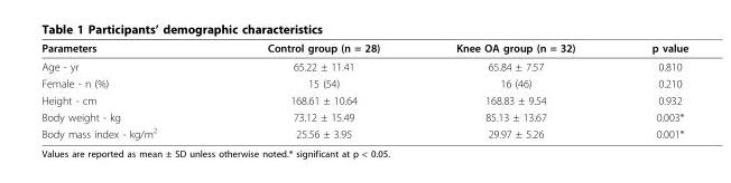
<table><thead><tr><td>Parameters</td><td>Control group (n = 28)</td><td>Knee OA group (n = 32)</td><td>p value</td></tr></thead><tbody><tr><td>Age - yr</td><td>65.22 ± 11.41</td><td>65.84 ± 7.57</td><td>0.810</td></tr><tr><td>Female - n (%)</td><td>15 (54)</td><td>16 (46)</td><td>0.210</td></tr><tr><td>Height - cm</td><td>168.61 ± 10.64</td><td>168.83 ± 9.54</td><td>0.932</td></tr><tr><td>Body weight - kg</td><td>73.12 ± 15.49</td><td>85.13 ± 13.67</td><td>0.003*</td></tr><tr><td>Body mass index - kg/m<sup>2</sup></td><td>25.56 ± 3.95</td><td>29.97 ± 5.26</td><td>0.001*</td></tr></tbody></table>